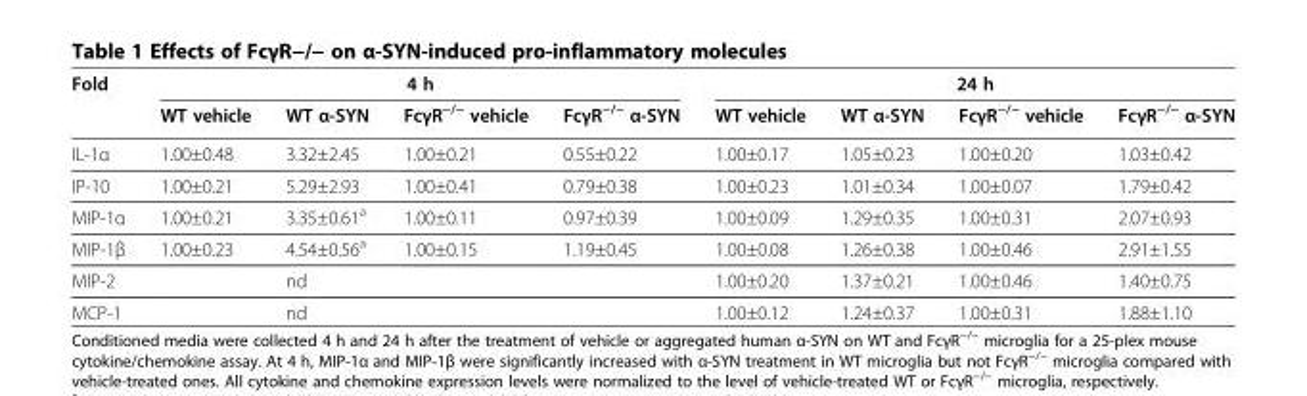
<table><thead><tr><td rowspan="2">Fold</td><td colspan="4">4 h</td><td colspan="4">24 h</td></tr><tr><td>WT vehicle</td><td>WT α-SYN</td><td>FcγR<sup>−/−</sup> vehicle</td><td>FcγR<sup>−/−</sup> α-SYN</td><td>WT vehicle</td><td>WT α-SYN</td><td>FcγR<sup>−/−</sup> vehicle</td><td>FcγR<sup>−/−</sup> α-SYN</td></tr></thead><tbody><tr><td>IL-1α</td><td>1.00±0.48</td><td>3.32±2.45</td><td>1.00±0.21</td><td>0.55±0.22</td><td>1.00±0.17</td><td>1.05±0.23</td><td>1.00±0.20</td><td>1.03±0.42</td></tr><tr><td>IP-10</td><td>1.00±0.21</td><td>5.29±2.93</td><td>1.00±0.41</td><td>0.79±0.38</td><td>1.00±0.23</td><td>1.01±0.34</td><td>1.00±0.07</td><td>1.79±0.42</td></tr><tr><td>MIP-1α</td><td>1.00±0.21</td><td>3.35±0.61<sup>a</sup></td><td>1.00±0.11</td><td>0.97±0.39</td><td>1.00±0.09</td><td>1.29±0.35</td><td>1.00±0.31</td><td>2.07±0.93</td></tr><tr><td>MIP-1β</td><td>1.00±0.23</td><td>4.54±0.56<sup>a</sup></td><td>1.00±0.15</td><td>1.19±0.45</td><td>1.00±0.08</td><td>1.26±0.38</td><td>1.00±0.46</td><td>2.91±1.55</td></tr><tr><td>MIP-2</td><td></td><td colspan="2">nd</td><td></td><td>1.00±0.20</td><td>1.37±0.21</td><td>1.00±0.46</td><td>1.40±0.75</td></tr><tr><td>MCP-1</td><td></td><td colspan="2">nd</td><td></td><td>1.00±0.12</td><td>1.24±0.37</td><td>1.00±0.31</td><td>1.88±1.10</td></tr></tbody></table>